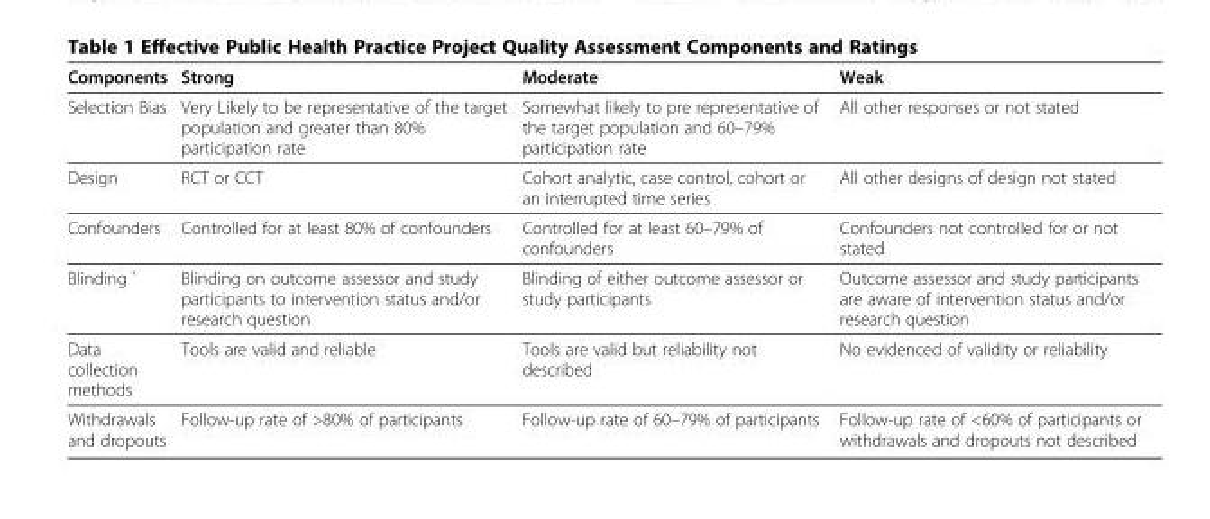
<table><thead><tr><td>Components</td><td>Strong</td><td>Moderate</td><td>Weak</td></tr></thead><tbody><tr><td>Selection Bias</td><td>Very Likely to be representative of the target population and greater than 80% participation rate</td><td>Somewhat likely to pre representative of the target population and 60–79% participation rate</td><td>All other responses or not stated</td></tr><tr><td>Design</td><td>RCT or CCT</td><td>Cohort analytic, case control, cohort or an interrupted time series</td><td>All other designs of design not stated</td></tr><tr><td>Confounders</td><td>Controlled for at least 80% of confounders</td><td>Controlled for at least 60–79% of confounders</td><td>Confounders not controlled for or not stated</td></tr><tr><td>Blinding `</td><td>Blinding on outcome assessor and study participants to intervention status and/or research question</td><td>Blinding of either outcome assessor or study participants</td><td>Outcome assessor and study participants are aware of intervention status and/or research question</td></tr><tr><td>Data collection methods</td><td>Tools are valid and reliable</td><td>Tools are valid but reliability not described</td><td>No evidenced of validity or reliability</td></tr><tr><td>Withdrawals and dropouts</td><td>Follow-up rate of &gt;80% of participants</td><td>Follow-up rate of 60–79% of participants</td><td>Follow-up rate of &lt;60% of participants or withdrawals and dropouts not described</td></tr></tbody></table>